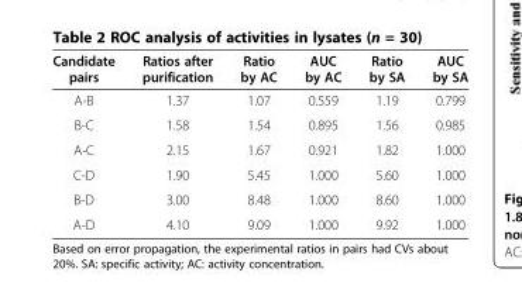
<table><thead><tr><td>Candidate pairs</td><td>Ratios after purification</td><td>Ratio by AC</td><td>AUC by AC</td><td>Ratio by SA</td><td>AUC by SA</td></tr></thead><tbody><tr><td>A-B</td><td>1.37</td><td>1.07</td><td>0.559</td><td>1.19</td><td>0.799</td></tr><tr><td>B-C</td><td>1.58</td><td>1.54</td><td>0.895</td><td>1.56</td><td>0.985</td></tr><tr><td>A-C</td><td>2.15</td><td>1.67</td><td>0.921</td><td>1.82</td><td>1.000</td></tr><tr><td>C-D</td><td>1.90</td><td>5.45</td><td>1.000</td><td>5.60</td><td>1.000</td></tr><tr><td>B-D</td><td>3.00</td><td>8.48</td><td>1.000</td><td>8.60</td><td>1.000</td></tr><tr><td>A-D</td><td>4.10</td><td>9.09</td><td>1.000</td><td>9.92</td><td>1.000</td></tr></tbody></table>